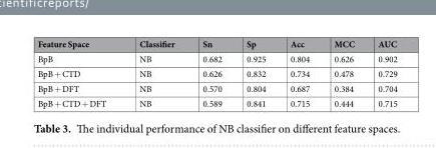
<table><thead><tr><td>Feature Space</td><td>Classifier</td><td>Sn</td><td>Sp</td><td>Acc</td><td>MCC</td><td>AUC</td></tr></thead><tbody><tr><td>BpB</td><td>NB</td><td>0.682</td><td>0.925</td><td>0.804</td><td>0.626</td><td>0.902</td></tr><tr><td>BpB + CTD</td><td>NB</td><td>0.626</td><td>0.832</td><td>0.734</td><td>0.478</td><td>0.729</td></tr><tr><td>BpB + DFT</td><td>NB</td><td>0.570</td><td>0.804</td><td>0.687</td><td>0.384</td><td>0.704</td></tr><tr><td>BpB + CTD + DFT</td><td>NB</td><td>0.589</td><td>0.841</td><td>0.715</td><td>0.444</td><td>0.715</td></tr></tbody></table>